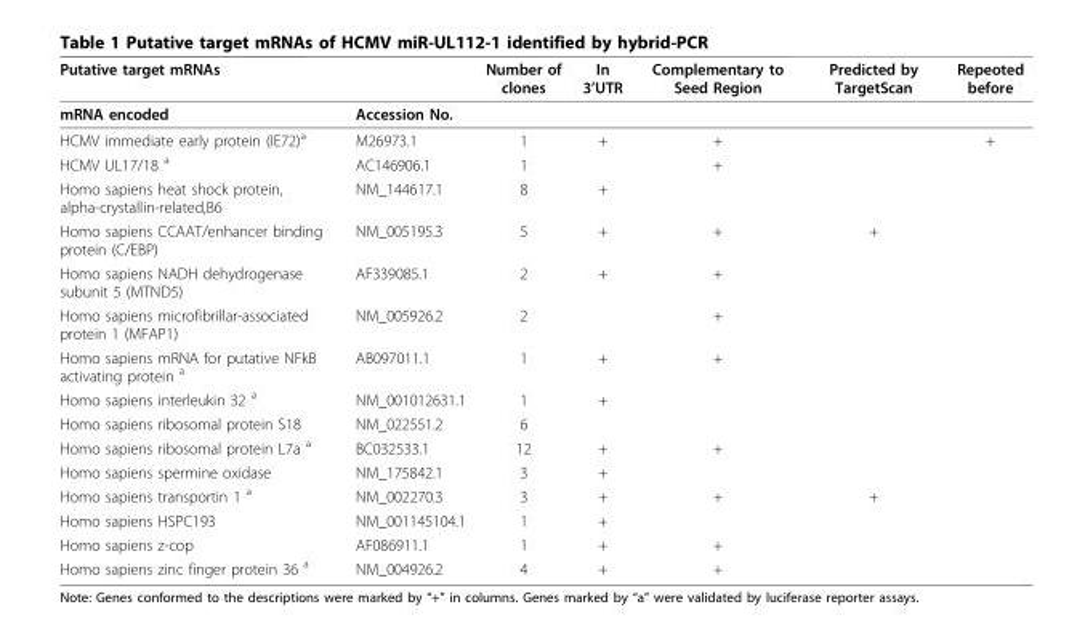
<table><thead><tr><td colspan="2">Putative target mRNAs</td><td rowspan="2">Number of clones</td><td rowspan="2">In 3’UTR</td><td rowspan="2">Complementary to Seed Region</td><td rowspan="2">Predicted by TargetScan</td><td rowspan="2">Repeoted before</td></tr><tr><td>mRNA encoded</td><td>Accession No.</td></tr></thead><tbody><tr><td>HCMV immediate early protein (IE72)<sup>a</sup></td><td>M26973.1</td><td>1</td><td>+</td><td>+</td><td></td><td>+</td></tr><tr><td>HCMV UL17/18 <sup>a</sup></td><td>AC146906.1</td><td>1</td><td></td><td>+</td><td></td><td></td></tr><tr><td>Homo sapiens heat shock protein, alpha-crystallin-related,B6</td><td>NM_144617.1</td><td>8</td><td>+</td><td></td><td></td><td></td></tr><tr><td>Homo sapiens CCAAT/enhancer binding protein (C/EBP)</td><td>NM_005195.3</td><td>5</td><td>+</td><td>+</td><td>+</td><td></td></tr><tr><td>Homo sapiens NADH dehydrogenase subunit 5 (MTND5)</td><td>AF339085.1</td><td>2</td><td>+</td><td>+</td><td></td><td></td></tr><tr><td>Homo sapiens microfibrillar-associated protein 1 (MFAP1)</td><td>NM_005926.2</td><td>2</td><td></td><td>+</td><td></td><td></td></tr><tr><td>Homo sapiens mRNA for putative NFkB activating protein <sup>a</sup></td><td>AB097011.1</td><td>1</td><td>+</td><td>+</td><td></td><td></td></tr><tr><td>Homo sapiens interleukin 32 <sup>a</sup></td><td>NM_001012631.1</td><td>1</td><td>+</td><td></td><td></td><td></td></tr><tr><td>Homo sapiens ribosomal protein S18</td><td>NM_022551.2</td><td>6</td><td></td><td></td><td></td><td></td></tr><tr><td>Homo sapiens ribosomal protein L7a <sup>a</sup></td><td>BC032533.1</td><td>12</td><td>+</td><td>+</td><td></td><td></td></tr><tr><td>Homo sapiens spermine oxidase</td><td>NM_175842.1</td><td>3</td><td>+</td><td></td><td></td><td></td></tr><tr><td>Homo sapiens transportin 1 <sup>a</sup></td><td>NM_002270.3</td><td>3</td><td>+</td><td>+</td><td>+</td><td></td></tr><tr><td>Homo sapiens HSPC193</td><td>NM_001145104.1</td><td>1</td><td>+</td><td></td><td></td><td></td></tr><tr><td>Homo sapiens z-cop</td><td>AF086911.1</td><td>1</td><td>+</td><td>+</td><td></td><td></td></tr><tr><td>Homo sapiens zinc finger protein 36 <sup>a</sup></td><td>NM_004926.2</td><td>4</td><td>+</td><td>+</td><td></td><td></td></tr></tbody></table>